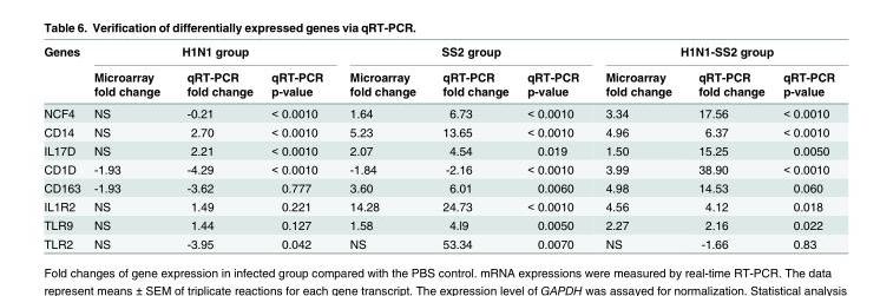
<table><thead><tr><td rowspan="2">Genes</td><td colspan="3">H1N1 group</td><td colspan="3">SS2 group</td><td colspan="3">H1N1-SS2 group</td></tr><tr><td>Microarray fold change</td><td>qRT-PCR fold change</td><td>qRT-PCR p-value</td><td>Microarray fold change</td><td>qRT-PCR fold change</td><td>qRT-PCR p-value</td><td>Microarray fold change</td><td>qRT-PCR fold change</td><td>qRT-PCR p-value</td></tr></thead><tbody><tr><td>NCF4</td><td>NS</td><td>-0.21</td><td>&lt; 0.0010</td><td>1.64</td><td>6.73</td><td>&lt; 0.0010</td><td>3.34</td><td>17.56</td><td>&lt; 0.0010</td></tr><tr><td>CD14</td><td>NS</td><td>2.70</td><td>&lt; 0.0010</td><td>5.23</td><td>13.65</td><td>&lt; 0.0010</td><td>4.96</td><td>6.37</td><td>&lt; 0.0010</td></tr><tr><td>IL17D</td><td>NS</td><td>2.21</td><td>&lt; 0.0010</td><td>2.07</td><td>4.54</td><td>0.019</td><td>1.50</td><td>15.25</td><td>0.0050</td></tr><tr><td>CD1D</td><td>-1.93</td><td>-4.29</td><td>&lt; 0.0010</td><td>-1.84</td><td>-2.16</td><td>&lt; 0.0010</td><td>3.99</td><td>38.90</td><td>&lt; 0.0010</td></tr><tr><td>CD163</td><td>-1.93</td><td>-3.62</td><td>0.777</td><td>3.60</td><td>6.01</td><td>0.0060</td><td>4.98</td><td>14.53</td><td>0.060</td></tr><tr><td>IL1R2</td><td>NS</td><td>1.49</td><td>0.221</td><td>14.28</td><td>24.73</td><td>&lt; 0.0010</td><td>4.56</td><td>4.12</td><td>0.018</td></tr><tr><td>TLR9</td><td>NS</td><td>1.44</td><td>0.127</td><td>1.58</td><td>4.l9</td><td>0.0050</td><td>2.27</td><td>2.16</td><td>0.022</td></tr><tr><td>TLR2</td><td>NS</td><td>-3.95</td><td>0.042</td><td>NS</td><td>53.34</td><td>0.0070</td><td>NS</td><td>-1.66</td><td>0.83</td></tr></tbody></table>